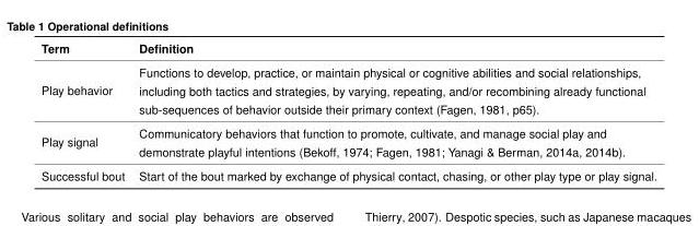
<table><thead><tr><td>Term</td><td>Definition</td></tr></thead><tbody><tr><td>Play behavior</td><td>Functions to develop, practice, or maintain physical or cognitive abilities and social relationships, including both tactics and strategies, by varying, repeating, and/or recombining already functional sub-sequences of behavior outside their primary context (Fagen, 1981, p65).</td></tr><tr><td>Play signal</td><td>Communicatory behaviors that function to promote, cultivate, and manage social play and demonstrate playful intentions (Bekoff, 1974; Fagen, 1981; Yanagi &amp; Berman, 2014a, 2014b).</td></tr><tr><td>Successful bout</td><td>Start of the bout marked by exchange of physical contact, chasing, or other play type or play signal.</td></tr></tbody></table>